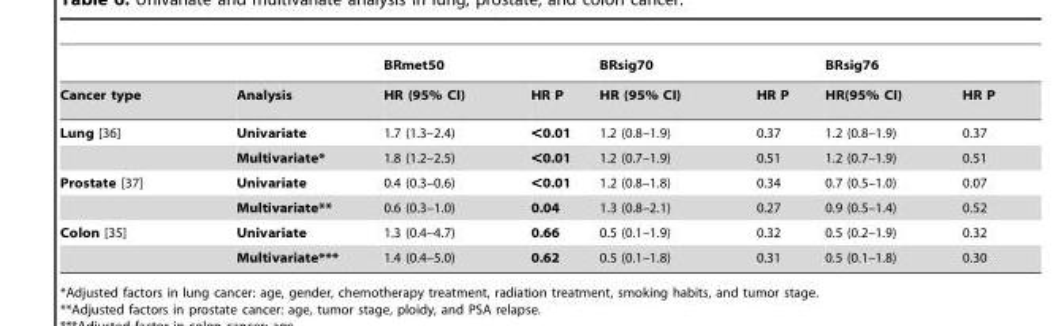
<table><thead><tr><td rowspan="2">Cancer type</td><td rowspan="2">Analysis</td><td colspan="2">BRmet50</td><td colspan="2">BRsig70</td><td colspan="2">BRsig76</td></tr><tr><td>HR (95% CI)</td><td>HR P</td><td>HR (95% CI)</td><td>HR P</td><td>HR(95% CI)</td><td>HR P</td></tr></thead><tbody><tr><td rowspan="2">Lung [36]</td><td>Univariate</td><td>1.7 (1.3–2.4)</td><td>&lt;0.01</td><td>1.2 (0.8–1.9)</td><td>0.37</td><td>1.2 (0.8–1.9)</td><td>0.37</td></tr><tr><td>Multivariate*</td><td>1.8 (1.2–2.5)</td><td>&lt;0.01</td><td>1.2 (0.7–1.9)</td><td>0.51</td><td>1.2 (0.7–1.9)</td><td>0.51</td></tr><tr><td rowspan="2">Prostate [37]</td><td>Univariate</td><td>0.4 (0.3–0.6)</td><td>&lt;0.01</td><td>1.2 (0.8–1.8)</td><td>0.34</td><td>0.7 (0.5–1.0)</td><td>0.07</td></tr><tr><td>Multivariate**</td><td>0.6 (0.3–1.0)</td><td>0.04</td><td>1.3 (0.8–2.1)</td><td>0.27</td><td>0.9 (0.5–1.4)</td><td>0.52</td></tr><tr><td rowspan="2">Colon [35]</td><td>Univariate</td><td>1.3 (0.4–4.7)</td><td>0.66</td><td>0.5 (0.1–1.9)</td><td>0.32</td><td>0.5 (0.2–1.9)</td><td>0.32</td></tr><tr><td>Multivariate***</td><td>1.4 (0.4–5.0)</td><td>0.62</td><td>0.5 (0.1–1.8)</td><td>0.31</td><td>0.5 (0.1–1.8)</td><td>0.30</td></tr></tbody></table>